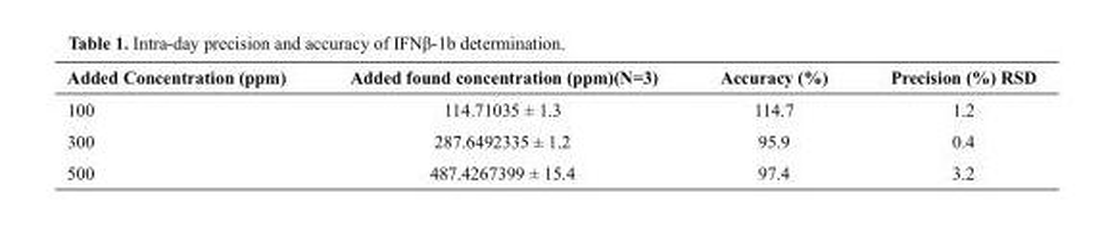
<table><tbody><tr><td>Added Concentration (ppm)</td><td>Added found concentration (ppm)(N=3)</td><td>Accuracy (%)</td><td>Precision (%) RSD</td></tr><tr><td>100</td><td>114.71035 ± 1.3</td><td>114.7</td><td>1.2</td></tr><tr><td>300</td><td>287.6492335 ± 1.2</td><td>95.9</td><td>0.4</td></tr><tr><td>500</td><td>487.4267399 ± 15.4</td><td>97.4</td><td>3.2</td></tr></tbody></table>